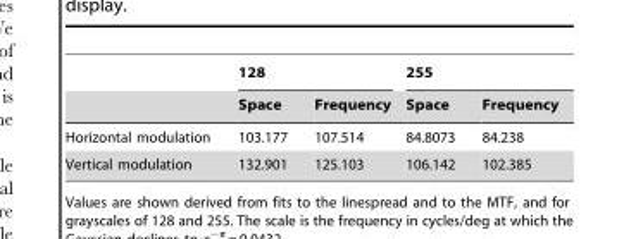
<table><thead><tr><td rowspan="2"></td><td colspan="2">128</td><td colspan="2">255</td></tr><tr><td>Space</td><td>Frequency</td><td>Space</td><td>Frequency</td></tr></thead><tbody><tr><td>Horizontal modulation</td><td>103.177</td><td>107.514</td><td>84.8073</td><td>84.238</td></tr><tr><td>Vertical modulation</td><td>132.901</td><td>125.103</td><td>106.142</td><td>102.385</td></tr></tbody></table>